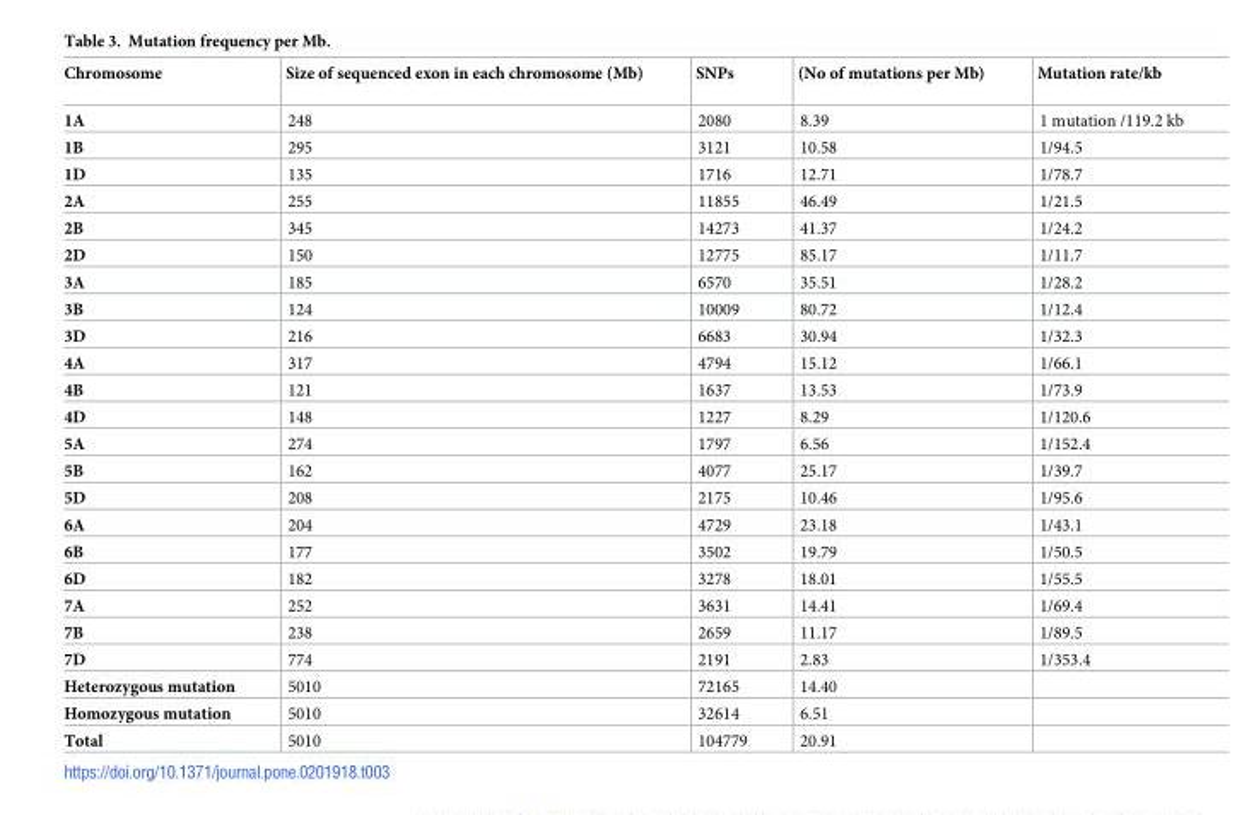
<table><thead><tr><td>Chromosome</td><td>Size of sequenced exon in each chromosome (Mb)</td><td>SNPs</td><td>(No of mutations per Mb)</td><td>Mutation rate/kb</td></tr></thead><tbody><tr><td>1A</td><td>248</td><td>2080</td><td>8.39</td><td>1 mutation /119.2 kb</td></tr><tr><td>1B</td><td>295</td><td>3121</td><td>10.58</td><td>1/94.5</td></tr><tr><td>1D</td><td>135</td><td>1716</td><td>12.71</td><td>1/78.7</td></tr><tr><td>2A</td><td>255</td><td>11855</td><td>46.49</td><td>1/21.5</td></tr><tr><td>2B</td><td>345</td><td>14273</td><td>41.37</td><td>1/24.2</td></tr><tr><td>2D</td><td>150</td><td>12775</td><td>85.17</td><td>1/11.7</td></tr><tr><td>3A</td><td>185</td><td>6570</td><td>35.51</td><td>1/28.2</td></tr><tr><td>3B</td><td>124</td><td>10009</td><td>80.72</td><td>1/12.4</td></tr><tr><td>3D</td><td>216</td><td>6683</td><td>30.94</td><td>1/32.3</td></tr><tr><td>4A</td><td>317</td><td>4794</td><td>15.12</td><td>1/66.1</td></tr><tr><td>4B</td><td>121</td><td>1637</td><td>13.53</td><td>1/73.9</td></tr><tr><td>4D</td><td>148</td><td>1227</td><td>8.29</td><td>1/120.6</td></tr><tr><td>5A</td><td>274</td><td>1797</td><td>6.56</td><td>1/152.4</td></tr><tr><td>5B</td><td>162</td><td>4077</td><td>25.17</td><td>1/39.7</td></tr><tr><td>5D</td><td>208</td><td>2175</td><td>10.46</td><td>1/95.6</td></tr><tr><td>6A</td><td>204</td><td>4729</td><td>23.18</td><td>1/43.1</td></tr><tr><td>6B</td><td>177</td><td>3502</td><td>19.79</td><td>1/50.5</td></tr><tr><td>6D</td><td>182</td><td>3278</td><td>18.01</td><td>1/55.5</td></tr><tr><td>7A</td><td>252</td><td>3631</td><td>14.41</td><td>1/69.4</td></tr><tr><td>7B</td><td>238</td><td>2659</td><td>11.17</td><td>1/89.5</td></tr><tr><td>7D</td><td>774</td><td>2191</td><td>2.83</td><td>1/353.4</td></tr><tr><td>Heterozygous mutation</td><td>5010</td><td>72165</td><td>14.40</td><td></td></tr><tr><td>Homozygous mutation</td><td>5010</td><td>32614</td><td>6.51</td><td></td></tr><tr><td>Total</td><td>5010</td><td>104779</td><td>20.91</td><td></td></tr></tbody></table>